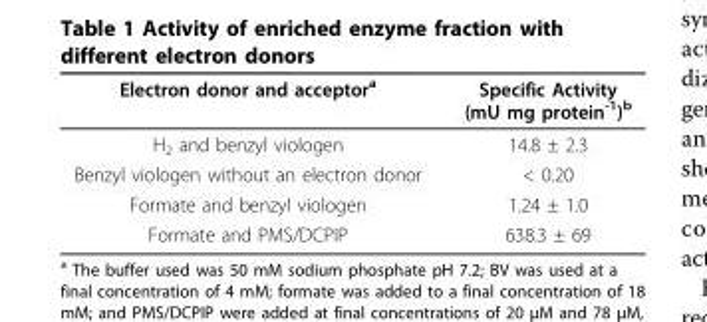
<table><thead><tr><td>Electron donor and acceptor<sup>a</sup></td><td>Specific Activity (mU mg protein<sup>-1</sup>)<sup>b</sup></td></tr></thead><tbody><tr><td>H<sub>2</sub> and benzyl viologen</td><td>14.8 ± 2.3</td></tr><tr><td>Benzyl viologen without an electron donor</td><td>&lt; 0.20</td></tr><tr><td>Formate and benzyl viologen</td><td>1.24 ± 1.0</td></tr><tr><td>Formate and PMS/DCPIP</td><td>638.3 ± 69</td></tr></tbody></table>